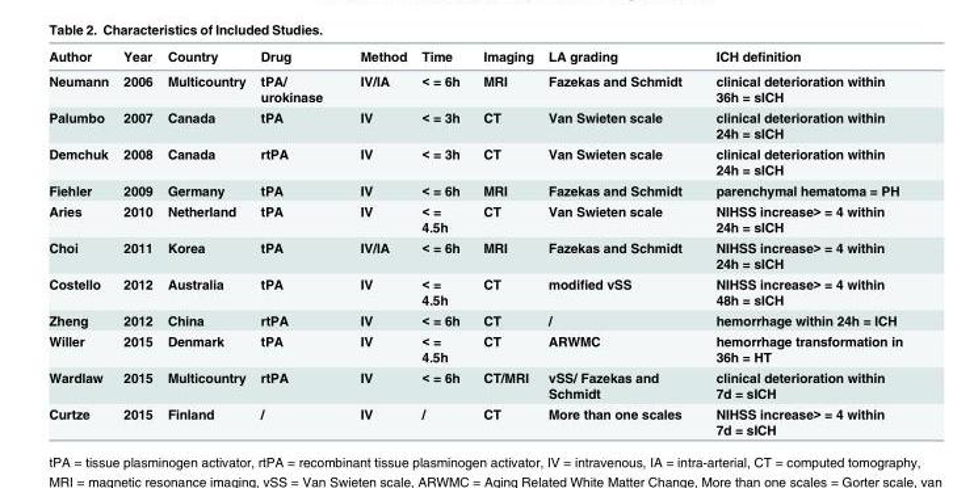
<table><thead><tr><td>Author</td><td>Year</td><td>Country</td><td>Drug</td><td>Method</td><td>Time</td><td>Imaging</td><td>LA grading</td><td>ICH definition</td></tr></thead><tbody><tr><td>Neumann</td><td>2006</td><td>Multicountry</td><td>tPA/ urokinase</td><td>IV/IA</td><td>&lt; = 6h</td><td>MRI</td><td>Fazekas and Schmidt</td><td>clinical deterioration within 36h = sICH</td></tr><tr><td>Palumbo</td><td>2007</td><td>Canada</td><td>tPA</td><td>IV</td><td>&lt; = 3h</td><td>CT</td><td>Van Swieten scale</td><td>clinical deterioration within 24h = sICH</td></tr><tr><td>Demchuk</td><td>2008</td><td>Canada</td><td>rtPA</td><td>IV</td><td>&lt; = 3h</td><td>CT</td><td>Van Swieten scale</td><td>clinical deterioration within 24h = sICH</td></tr><tr><td>Fiehler</td><td>2009</td><td>Germany</td><td>tPA</td><td>IV</td><td>&lt; = 6h</td><td>MRI</td><td>Fazekas and Schmidt</td><td>parenchymal hematoma = PH</td></tr><tr><td>Aries</td><td>2010</td><td>Netherland</td><td>tPA</td><td>IV</td><td>&lt; = 4.5h</td><td>CT</td><td>Van Swieten scale</td><td>NIHSS increase&gt; = 4 within 24h = sICH</td></tr><tr><td>Choi</td><td>2011</td><td>Korea</td><td>tPA</td><td>IV/IA</td><td>&lt; = 6h</td><td>MRI</td><td>Fazekas and Schmidt</td><td>NIHSS increase&gt; = 4 within 24h = sICH</td></tr><tr><td>Costello</td><td>2012</td><td>Australia</td><td>tPA</td><td>IV</td><td>&lt; = 4.5h</td><td>CT</td><td>modified vSS</td><td>NIHSS increase&gt; = 4 within 48h = sICH</td></tr><tr><td>Zheng</td><td>2012</td><td>China</td><td>rtPA</td><td>IV</td><td>&lt; = 6h</td><td>CT</td><td>/</td><td>hemorrhage within 24h = ICH</td></tr><tr><td>Willer</td><td>2015</td><td>Denmark</td><td>tPA</td><td>IV</td><td>&lt; = 4.5h</td><td>CT</td><td>ARWMC</td><td>hemorrhage transformation in 36h = HT</td></tr><tr><td>Wardlaw</td><td>2015</td><td>Multicountry</td><td>rtPA</td><td>IV</td><td>&lt; = 6h</td><td>CT/MRI</td><td>vSS/ Fazekas and Schmidt</td><td>clinical deterioration within 7d = sICH</td></tr><tr><td>Curtze</td><td>2015</td><td>Finland</td><td>/</td><td>IV</td><td>/</td><td>CT</td><td>More than one scales</td><td>NIHSS increase&gt; = 4 within 7d = sICH</td></tr></tbody></table>